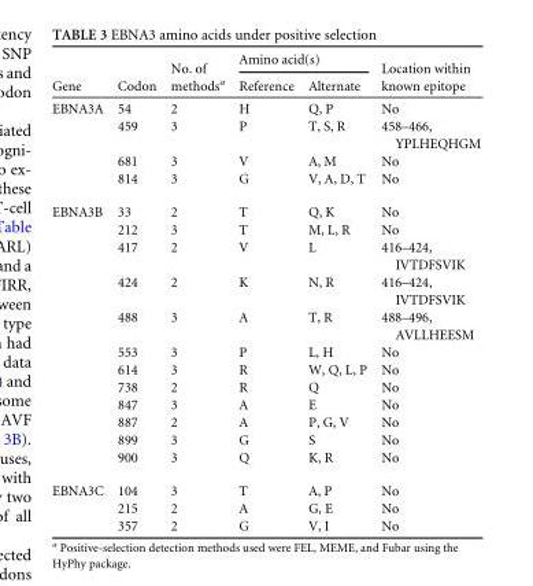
<table><thead><tr><td rowspan="2">Gene</td><td rowspan="2">Codon</td><td rowspan="2">No. of methods<sup>a</sup></td><td colspan="2">Amino acid(s)</td><td rowspan="2">Location within known epitope</td></tr><tr><td>Reference</td><td>Alternate</td></tr></thead><tbody><tr><td rowspan="4">EBNA3A</td><td>54</td><td>2</td><td>H</td><td>Q, P</td><td>No</td></tr><tr><td>459</td><td>3</td><td>P</td><td>T, S, R</td><td>458–466, YPLHEQHGM</td></tr><tr><td>681</td><td>3</td><td>V</td><td>A, M</td><td>No</td></tr><tr><td>814</td><td>3</td><td>G</td><td>V, A, D, T</td><td>No</td></tr><tr><td rowspan="12">EBNA3B</td><td>33</td><td>2</td><td>T</td><td>Q, K</td><td>No</td></tr><tr><td>212</td><td>3</td><td>T</td><td>M, L, R</td><td>No</td></tr><tr><td>417</td><td>2</td><td>V</td><td>L</td><td>416–424, IVTDFSVIK</td></tr><tr><td>424</td><td>2</td><td>K</td><td>N, R</td><td>416–424, IVTDFSVIK</td></tr><tr><td>488</td><td>3</td><td>A</td><td>T, R</td><td>488–496, AVLLHEESM</td></tr><tr><td>553</td><td>3</td><td>P</td><td>L, H</td><td>No</td></tr><tr><td>614</td><td>3</td><td>R</td><td>W, Q, L, P</td><td>No</td></tr><tr><td>738</td><td>2</td><td>R</td><td>Q</td><td>No</td></tr><tr><td>847</td><td>3</td><td>A</td><td>E</td><td>No</td></tr><tr><td>887</td><td>2</td><td>A</td><td>P, G, V</td><td>No</td></tr><tr><td>899</td><td>3</td><td>G</td><td>S</td><td>No</td></tr><tr><td>900</td><td>3</td><td>Q</td><td>K, R</td><td>No</td></tr><tr><td rowspan="3">EBNA3C</td><td>104</td><td>3</td><td>T</td><td>A, P</td><td>No</td></tr><tr><td>215</td><td>2</td><td>A</td><td>G, E</td><td>No</td></tr><tr><td>357</td><td>2</td><td>G</td><td>V, I</td><td>No</td></tr></tbody></table>